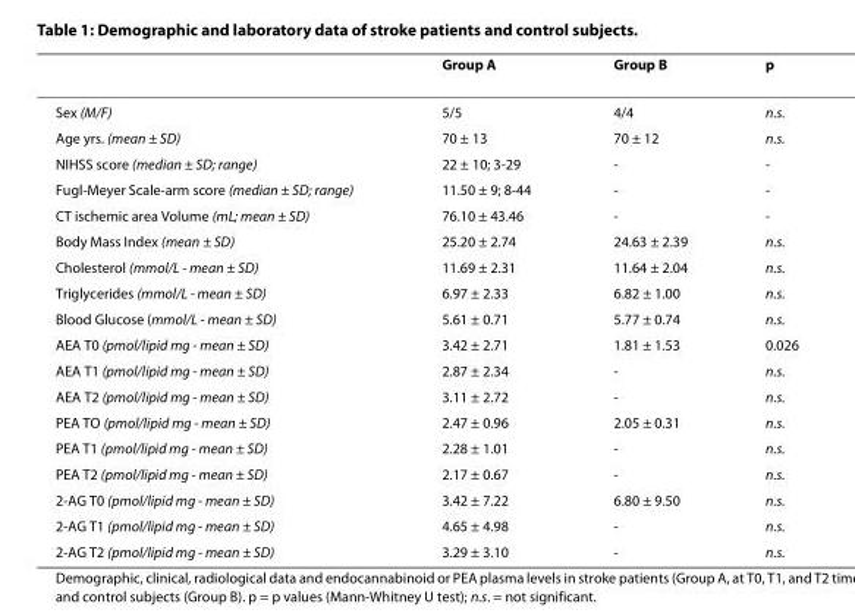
<table><thead><tr><td></td><td>Group A</td><td>Group B</td><td>p</td></tr></thead><tbody><tr><td>Sex (M/F)</td><td>5/5</td><td>4/4</td><td>n.s.</td></tr><tr><td>Age yrs. (mean ± SD)</td><td>70 ± 13</td><td>70 ± 12</td><td>n.s.</td></tr><tr><td>NIHSS score (median ± SD; range)</td><td>22 ± 10; 3-29</td><td>-</td><td>-</td></tr><tr><td>Fugl-Meyer Scale-arm score (median ± SD; range)</td><td>11.50 ± 9; 8-44</td><td>-</td><td>-</td></tr><tr><td>CT ischemic area Volume (mL; mean ± SD)</td><td>76.10 ± 43.46</td><td>-</td><td>-</td></tr><tr><td>Body Mass Index (mean ± SD)</td><td>25.20 ± 2.74</td><td>24.63 ± 2.39</td><td>n.s.</td></tr><tr><td>Cholesterol (mmol/L - mean ± SD)</td><td>11.69 ± 2.31</td><td>11.64 ± 2.04</td><td>n.s.</td></tr><tr><td>Triglycerides (mmol/L - mean ± SD)</td><td>6.97 ± 2.33</td><td>6.82 ± 1.00</td><td>n.s.</td></tr><tr><td>Blood Glucose (mmol/L - mean ± SD)</td><td>5.61 ± 0.71</td><td>5.77 ± 0.74</td><td>n.s.</td></tr><tr><td>AEA T0 (pmol/lipid mg - mean ± SD)</td><td>3.42 ± 2.71</td><td>1.81 ± 1.53</td><td>0.026</td></tr><tr><td>AEA T1 (pmol/lipid mg - mean ± SD)</td><td>2.87 ± 2.34</td><td>-</td><td>n.s.</td></tr><tr><td>AEA T2 (pmol/lipid mg - mean ± SD)</td><td>3.11 ± 2.72</td><td>-</td><td>n.s.</td></tr><tr><td>PEA TO (pmol/lipid mg - mean ± SD)</td><td>2.47 ± 0.96</td><td>2.05 ± 0.31</td><td>n.s.</td></tr><tr><td>PEA T1 (pmol/lipid mg - mean ± SD)</td><td>2.28 ± 1.01</td><td>-</td><td>n.s.</td></tr><tr><td>PEA T2 (pmol/lipid mg - mean ± SD)</td><td>2.17 ± 0.67</td><td>-</td><td>n.s.</td></tr><tr><td>2-AG T0 (pmol/lipid mg - mean ± SD)</td><td>3.42 ± 7.22</td><td>6.80 ± 9.50</td><td>n.s.</td></tr><tr><td>2-AG T1 (pmol/lipid mg - mean ± SD)</td><td>4.65 ± 4.98</td><td>-</td><td>n.s.</td></tr><tr><td>2-AG T2 (pmol/lipid mg - mean ± SD)</td><td>3.29 ± 3.10</td><td>-</td><td>n.s.</td></tr></tbody></table>